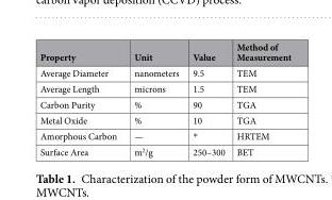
<table><thead><tr><td>Property</td><td>Unit</td><td>Value</td><td>Method of Measurement</td></tr></thead><tbody><tr><td>Average Diameter</td><td>nanometers</td><td>9.5</td><td>TEM</td></tr><tr><td>Average Length</td><td>microns</td><td>1.5</td><td>TEM</td></tr><tr><td>Carbon Purity</td><td>%</td><td>90</td><td>TGA</td></tr><tr><td>Metal Oxide</td><td>%</td><td>10</td><td>TGA</td></tr><tr><td>Amorphous Carbon</td><td>—</td><td>*</td><td>HRTEM</td></tr><tr><td>Surface Area</td><td>m<sup>2</sup>/g</td><td>250–300</td><td>BET</td></tr></tbody></table>